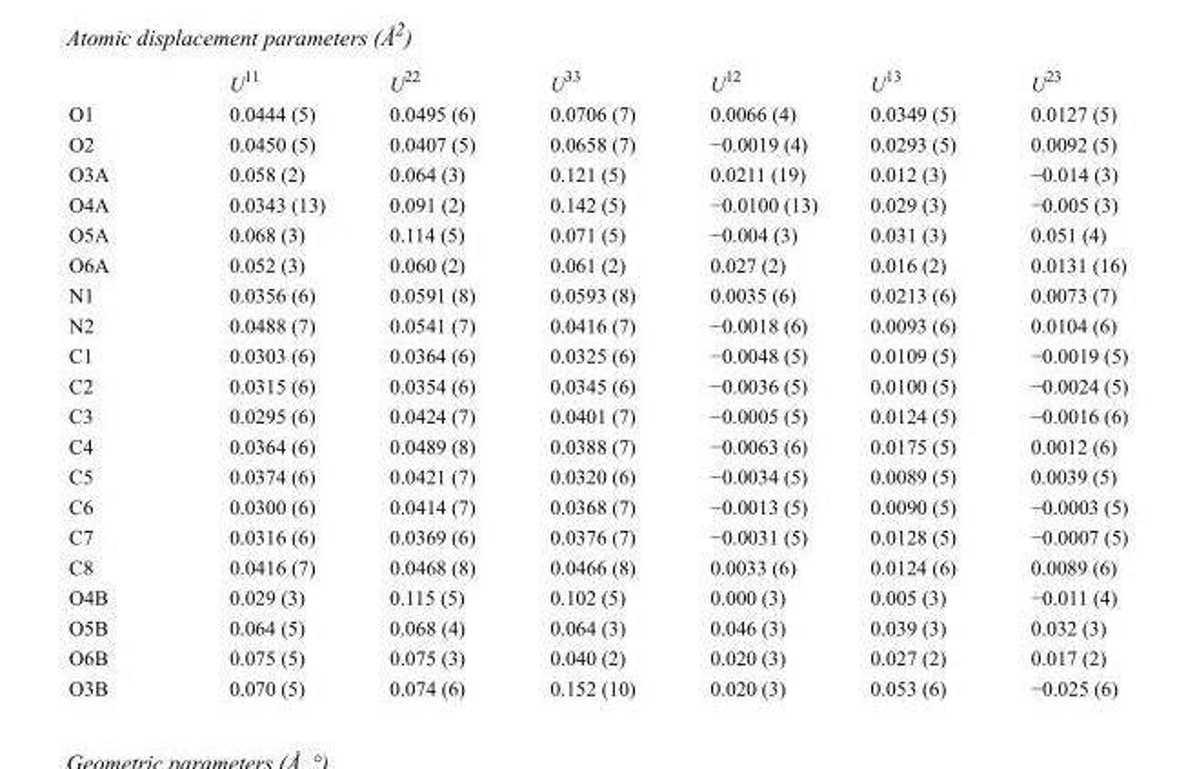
<table><thead><tr><td></td><td>U<sup>11</sup></td><td>U<sup>22</sup></td><td>U<sup>33</sup></td><td>U<sup>12</sup></td><td>U<sup>13</sup></td><td>U<sup>23</sup></td></tr></thead><tbody><tr><td>O1</td><td>0.0444 (5)</td><td>0.0495 (6)</td><td>0.0706 (7)</td><td>0.0066 (4)</td><td>0.0349 (5)</td><td>0.0127 (5)</td></tr><tr><td>O2</td><td>0.0450 (5)</td><td>0.0407 (5)</td><td>0.0658 (7)</td><td>−0.0019 (4)</td><td>0.0293 (5)</td><td>0.0092 (5)</td></tr><tr><td>O3A</td><td>0.058 (2)</td><td>0.064 (3)</td><td>0.121 (5)</td><td>0.0211 (19)</td><td>0.012 (3)</td><td>−0.014 (3)</td></tr><tr><td>O4A</td><td>0.0343 (13)</td><td>0.091 (2)</td><td>0.142 (5)</td><td>−0.0100 (13)</td><td>0.029 (3)</td><td>−0.005 (3)</td></tr><tr><td>O5A</td><td>0.068 (3)</td><td>0.114 (5)</td><td>0.071 (5)</td><td>−0.004 (3)</td><td>0.031 (3)</td><td>0.051 (4)</td></tr><tr><td>O6A</td><td>0.052 (3)</td><td>0.060 (2)</td><td>0.061 (2)</td><td>0.027 (2)</td><td>0.016 (2)</td><td>0.0131 (16)</td></tr><tr><td>N1</td><td>0.0356 (6)</td><td>0.0591 (8)</td><td>0.0593 (8)</td><td>0.0035 (6)</td><td>0.0213 (6)</td><td>0.0073 (7)</td></tr><tr><td>N2</td><td>0.0488 (7)</td><td>0.0541 (7)</td><td>0.0416 (7)</td><td>−0.0018 (6)</td><td>0.0093 (6)</td><td>0.0104 (6)</td></tr><tr><td>C1</td><td>0.0303 (6)</td><td>0.0364 (6)</td><td>0.0325 (6)</td><td>−0.0048 (5)</td><td>0.0109 (5)</td><td>−0.0019 (5)</td></tr><tr><td>C2</td><td>0.0315 (6)</td><td>0.0354 (6)</td><td>0.0345 (6)</td><td>−0.0036 (5)</td><td>0.0100 (5)</td><td>−0.0024 (5)</td></tr><tr><td>C3</td><td>0.0295 (6)</td><td>0.0424 (7)</td><td>0.0401 (7)</td><td>−0.0005 (5)</td><td>0.0124 (5)</td><td>−0.0016 (6)</td></tr><tr><td>C4</td><td>0.0364 (6)</td><td>0.0489 (8)</td><td>0.0388 (7)</td><td>−0.0063 (6)</td><td>0.0175 (5)</td><td>0.0012 (6)</td></tr><tr><td>C5</td><td>0.0374 (6)</td><td>0.0421 (7)</td><td>0.0320 (6)</td><td>−0.0034 (5)</td><td>0.0089 (5)</td><td>0.0039 (5)</td></tr><tr><td>C6</td><td>0.0300 (6)</td><td>0.0414 (7)</td><td>0.0368 (7)</td><td>−0.0013 (5)</td><td>0.0090 (5)</td><td>−0.0003 (5)</td></tr><tr><td>C7</td><td>0.0316 (6)</td><td>0.0369 (6)</td><td>0.0376 (7)</td><td>−0.0031 (5)</td><td>0.0128 (5)</td><td>−0.0007 (5)</td></tr><tr><td>C8</td><td>0.0416 (7)</td><td>0.0468 (8)</td><td>0.0466 (8)</td><td>0.0033 (6)</td><td>0.0124 (6)</td><td>0.0089 (6)</td></tr><tr><td>O4B</td><td>0.029 (3)</td><td>0.115 (5)</td><td>0.102 (5)</td><td>0.000 (3)</td><td>0.005 (3)</td><td>−0.011 (4)</td></tr><tr><td>O5B</td><td>0.064 (5)</td><td>0.068 (4)</td><td>0.064 (3)</td><td>0.046 (3)</td><td>0.039 (3)</td><td>0.032 (3)</td></tr><tr><td>O6B</td><td>0.075 (5)</td><td>0.075 (3)</td><td>0.040 (2)</td><td>0.020 (3)</td><td>0.027 (2)</td><td>0.017 (2)</td></tr><tr><td>O3B</td><td>0.070 (5)</td><td>0.074 (6)</td><td>0.152 (10)</td><td>0.020 (3)</td><td>0.053 (6)</td><td>−0.025 (6)</td></tr></tbody></table>